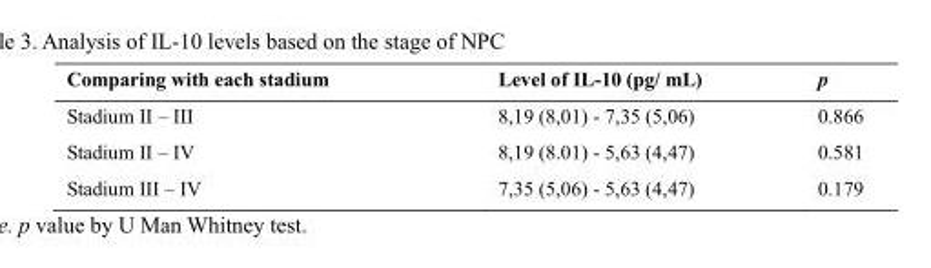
<table><thead><tr><td>Comparing with each stadium</td><td>Level of IL-10 (pg/ mL)</td><td>p</td></tr></thead><tbody><tr><td>Stadium II – III</td><td>8,19 (8,01) - 7,35 (5,06)</td><td>0.866</td></tr><tr><td>Stadium II – IV</td><td>8,19 (8.01) - 5,63 (4,47)</td><td>0.581</td></tr><tr><td>Stadium III – IV</td><td>7,35 (5,06) - 5,63 (4,47)</td><td>0.179</td></tr></tbody></table>